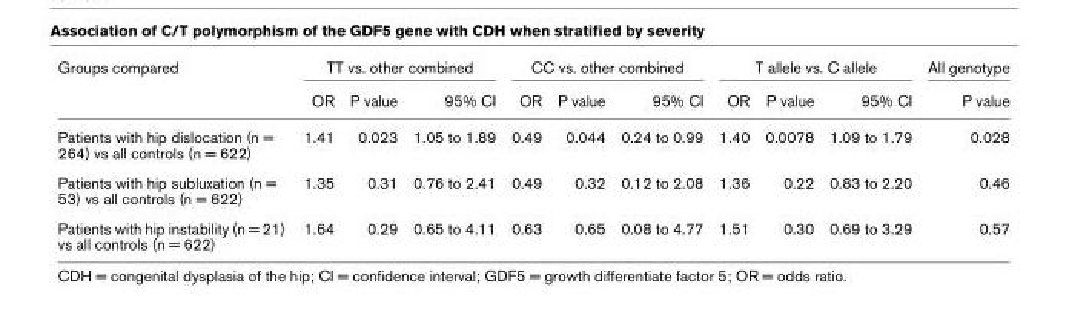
<table><thead><tr><td rowspan="2">Groups compared</td><td colspan="3">TT vs. other combined</td><td colspan="3">CC vs. other combined</td><td colspan="3">T allele vs. C allele</td><td rowspan="2">All genotype P value</td></tr><tr><td>OR</td><td>P value</td><td>95% CI</td><td>OR</td><td>P value</td><td>95% CI</td><td>OR</td><td>P value</td><td>95% CI</td></tr></thead><tbody><tr><td>Patients with hip dislocation (n = 264) vs all controls (n = 622)</td><td>1.41</td><td>0.023</td><td>1.05 to 1.89</td><td>0.49</td><td>0.044</td><td>0.24 to 0.99</td><td>1.40</td><td>0.0078</td><td>1.09 to 1.79</td><td>0.028</td></tr><tr><td>Patients with hip subluxation (n = 53) vs all controls (n = 622)</td><td>1.35</td><td>0.31</td><td>0.76 to 2.41</td><td>0.49</td><td>0.32</td><td>0.12 to 2.08</td><td>1.36</td><td>0.22</td><td>0.83 to 2.20</td><td>0.46</td></tr><tr><td>Patients with hip instability (n = 21) vs all controls (n = 622)</td><td>1.64</td><td>0.29</td><td>0.65 to 4.11</td><td>0.63</td><td>0.65</td><td>0.08 to 4.77</td><td>1.51</td><td>0.30</td><td>0.69 to 3.29</td><td>0.57</td></tr></tbody></table>